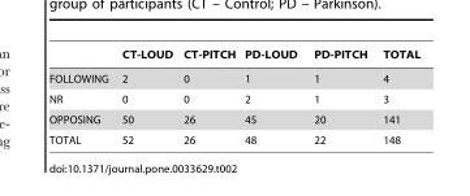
<table><thead><tr><td></td><td>CT-LOUD</td><td>CT-PITCH</td><td>PD-LOUD</td><td>PD-PITCH</td><td>TOTAL</td></tr></thead><tbody><tr><td>FOLLOWING</td><td>2</td><td>0</td><td>1</td><td>1</td><td>4</td></tr><tr><td>NR</td><td>0</td><td>0</td><td>2</td><td>1</td><td>3</td></tr><tr><td>OPPOSING</td><td>50</td><td>26</td><td>45</td><td>20</td><td>141</td></tr><tr><td>TOTAL</td><td>52</td><td>26</td><td>48</td><td>22</td><td>148</td></tr></tbody></table>